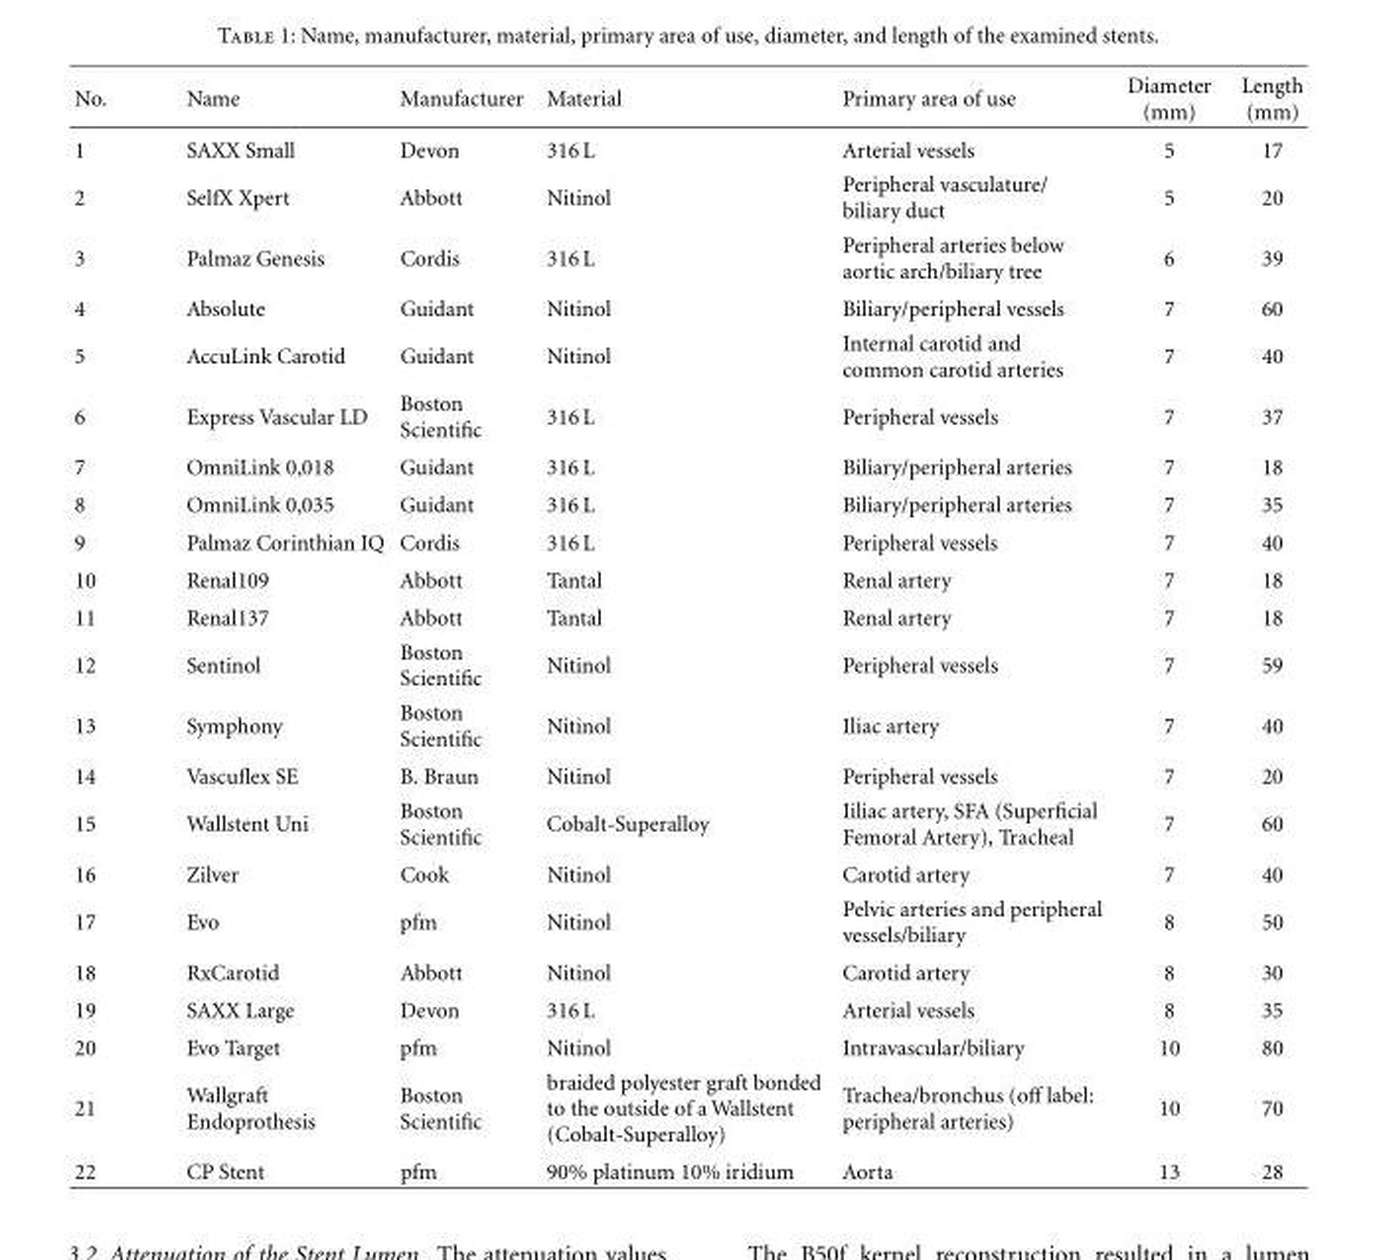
<table><thead><tr><td>No.</td><td>Name</td><td>Manufacturer</td><td>Material</td><td>Primary area of use</td><td>Diameter (mm)</td><td>Length (mm)</td></tr></thead><tbody><tr><td>1</td><td>SAXX Small</td><td>Devon</td><td>316 L</td><td>Arterial vessels</td><td>5</td><td>17</td></tr><tr><td>2</td><td>SelfX Xpert</td><td>Abbott</td><td>Nitinol</td><td>Peripheral vasculature/ biliary duct</td><td>5</td><td>20</td></tr><tr><td>3</td><td>Palmaz Genesis</td><td>Cordis</td><td>316 L</td><td>Peripheral arteries below aortic arch/biliary tree</td><td>6</td><td>39</td></tr><tr><td>4</td><td>Absolute</td><td>Guidant</td><td>Nitinol</td><td>Biliary/peripheral vessels</td><td>7</td><td>60</td></tr><tr><td>5</td><td>AccuLink Carotid</td><td>Guidant</td><td>Nitinol</td><td>Internal carotid and common carotid arteries</td><td>7</td><td>40</td></tr><tr><td>6</td><td>Express Vascular LD</td><td>Boston Scientific</td><td>316 L</td><td>Peripheral vessels</td><td>7</td><td>37</td></tr><tr><td>7</td><td>OmniLink 0,018</td><td>Guidant</td><td>316 L</td><td>Biliary/peripheral arteries</td><td>7</td><td>18</td></tr><tr><td>8</td><td>OmniLink 0,035</td><td>Guidant</td><td>316 L</td><td>Biliary/peripheral arteries</td><td>7</td><td>35</td></tr><tr><td>9</td><td>Palmaz Corinthian IQ</td><td>Cordis</td><td>316 L</td><td>Peripheral vessels</td><td>7</td><td>40</td></tr><tr><td>10</td><td>Renal109</td><td>Abbott</td><td>Tantal</td><td>Renal artery</td><td>7</td><td>18</td></tr><tr><td>11</td><td>Renal137</td><td>Abbott</td><td>Tantal</td><td>Renal artery</td><td>7</td><td>18</td></tr><tr><td>12</td><td>Sentinol</td><td>Boston Scientific</td><td>Nitinol</td><td>Peripheral vessels</td><td>7</td><td>59</td></tr><tr><td>13</td><td>Symphony</td><td>Boston Scientific</td><td>Nitinol</td><td>Iliac artery</td><td>7</td><td>40</td></tr><tr><td>14</td><td>Vascuflex SE</td><td>B. Braun</td><td>Nitinol</td><td>Peripheral vessels</td><td>7</td><td>20</td></tr><tr><td>15</td><td>Wallstent Uni</td><td>Boston Scientific</td><td>Cobalt-Superalloy</td><td>Iiliac artery, SFA (Superficial Femoral Artery), Tracheal</td><td>7</td><td>60</td></tr><tr><td>16</td><td>Zilver</td><td>Cook</td><td>Nitinol</td><td>Carotid artery</td><td>7</td><td>40</td></tr><tr><td>17</td><td>Evo</td><td>pfm</td><td>Nitinol</td><td>Pelvic arteries and peripheral vessels/biliary</td><td>8</td><td>50</td></tr><tr><td>18</td><td>RxCarotid</td><td>Abbott</td><td>Nitinol</td><td>Carotid artery</td><td>8</td><td>30</td></tr><tr><td>19</td><td>SAXX Large</td><td>Devon</td><td>316 L</td><td>Arterial vessels</td><td>8</td><td>35</td></tr><tr><td>20</td><td>Evo Target</td><td>pfm</td><td>Nitinol</td><td>Intravascular/biliary</td><td>10</td><td>80</td></tr><tr><td>21</td><td>Wallgraft Endoprothesis</td><td>Boston Scientific</td><td>braided polyester graft bonded to the outside of a Wallstent (Cobalt-Superalloy)</td><td>Trachea/bronchus (off label: peripheral arteries)</td><td>10</td><td>70</td></tr><tr><td>22</td><td>CP Stent</td><td>pfm</td><td>90% platinum 10% iridium</td><td>Aorta</td><td>13</td><td>28</td></tr></tbody></table>